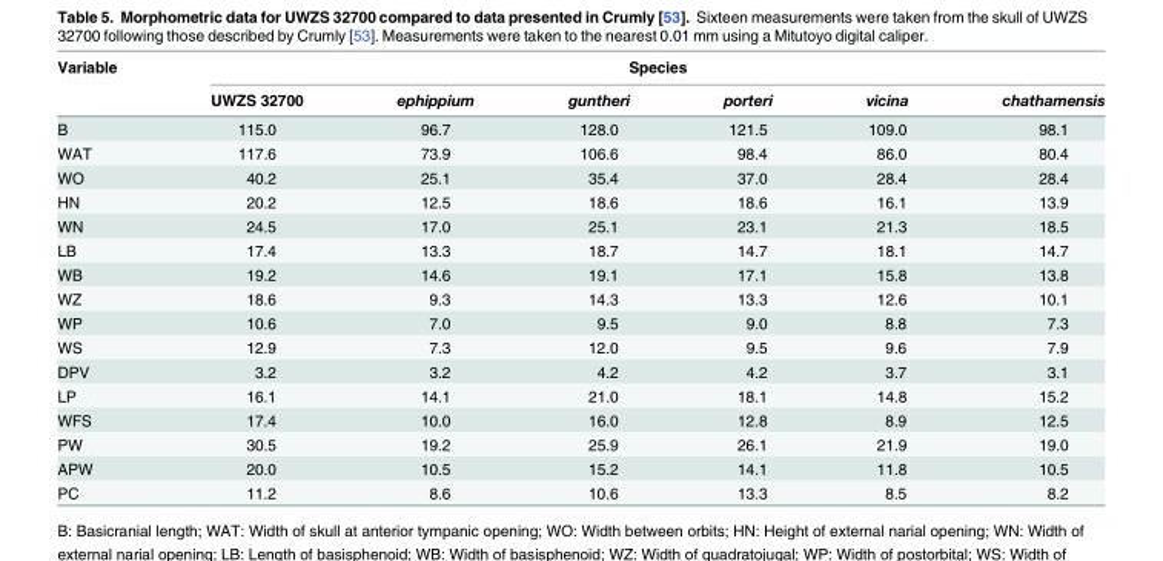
<table><thead><tr><td rowspan="2">Variable</td><td colspan="6">Species</td></tr><tr><td>UWZS 32700</td><td>ephippium</td><td>guntheri</td><td>porteri</td><td>vicina</td><td>chathamensis</td></tr></thead><tbody><tr><td>B</td><td>115.0</td><td>96.7</td><td>128.0</td><td>121.5</td><td>109.0</td><td>98.1</td></tr><tr><td>WAT</td><td>117.6</td><td>73.9</td><td>106.6</td><td>98.4</td><td>86.0</td><td>80.4</td></tr><tr><td>WO</td><td>40.2</td><td>25.1</td><td>35.4</td><td>37.0</td><td>28.4</td><td>28.4</td></tr><tr><td>HN</td><td>20.2</td><td>12.5</td><td>18.6</td><td>18.6</td><td>16.1</td><td>13.9</td></tr><tr><td>WN</td><td>24.5</td><td>17.0</td><td>25.1</td><td>23.1</td><td>21.3</td><td>18.5</td></tr><tr><td>LB</td><td>17.4</td><td>13.3</td><td>18.7</td><td>14.7</td><td>18.1</td><td>14.7</td></tr><tr><td>WB</td><td>19.2</td><td>14.6</td><td>19.1</td><td>17.1</td><td>15.8</td><td>13.8</td></tr><tr><td>WZ</td><td>18.6</td><td>9.3</td><td>14.3</td><td>13.3</td><td>12.6</td><td>10.1</td></tr><tr><td>WP</td><td>10.6</td><td>7.0</td><td>9.5</td><td>9.0</td><td>8.8</td><td>7.3</td></tr><tr><td>WS</td><td>12.9</td><td>7.3</td><td>12.0</td><td>9.5</td><td>9.6</td><td>7.9</td></tr><tr><td>DPV</td><td>3.2</td><td>3.2</td><td>4.2</td><td>4.2</td><td>3.7</td><td>3.1</td></tr><tr><td>LP</td><td>16.1</td><td>14.1</td><td>21.0</td><td>18.1</td><td>14.8</td><td>15.2</td></tr><tr><td>WFS</td><td>17.4</td><td>10.0</td><td>16.0</td><td>12.8</td><td>8.9</td><td>12.5</td></tr><tr><td>PW</td><td>30.5</td><td>19.2</td><td>25.9</td><td>26.1</td><td>21.9</td><td>19.0</td></tr><tr><td>APW</td><td>20.0</td><td>10.5</td><td>15.2</td><td>14.1</td><td>11.8</td><td>10.5</td></tr><tr><td>PC</td><td>11.2</td><td>8.6</td><td>10.6</td><td>13.3</td><td>8.5</td><td>8.2</td></tr></tbody></table>